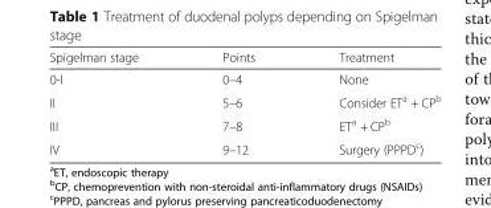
<table><thead><tr><td>Spigelman stage</td><td>Points</td><td>Treatment</td></tr></thead><tbody><tr><td>0-I</td><td>0–4</td><td>None</td></tr><tr><td>II</td><td>5–6</td><td>Consider ET<sup>a</sup> + CP<sup>b</sup></td></tr><tr><td>III</td><td>7–8</td><td>ET<sup>a</sup> + CP<sup>b</sup></td></tr><tr><td>IV</td><td>9–12</td><td>Surgery (PPPD<sup>c</sup>)</td></tr></tbody></table>